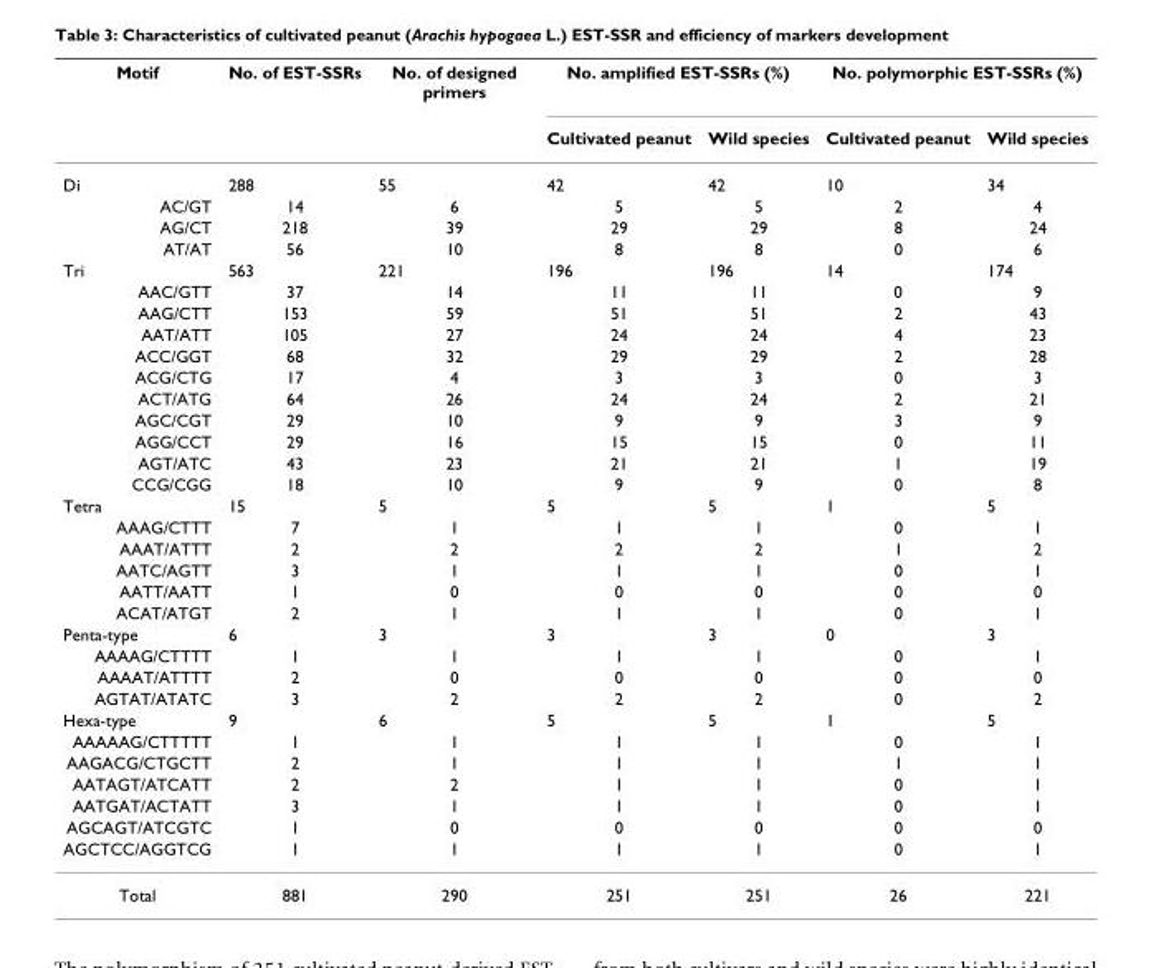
<table><thead><tr><td rowspan="2">Motif</td><td rowspan="2">No. of EST-SSRs</td><td rowspan="2">No. of designed primers</td><td colspan="2">No. amplified EST-SSRs (%)</td><td colspan="2">No. polymorphic EST-SSRs (%)</td></tr><tr><td>Cultivated peanut</td><td>Wild species</td><td>Cultivated peanut</td><td>Wild species</td></tr></thead><tbody><tr><td>Di</td><td>288</td><td>55</td><td>42</td><td>42</td><td>10</td><td>34</td></tr><tr><td>AC/GT</td><td>14</td><td>6</td><td>5</td><td>5</td><td>2</td><td>4</td></tr><tr><td>AG/CT</td><td>218</td><td>39</td><td>29</td><td>29</td><td>8</td><td>24</td></tr><tr><td>AT/AT</td><td>56</td><td>10</td><td>8</td><td>8</td><td>0</td><td>6</td></tr><tr><td>Tri</td><td>563</td><td>221</td><td>196</td><td>196</td><td>14</td><td>174</td></tr><tr><td>AAC/GTT</td><td>37</td><td>14</td><td>11</td><td>11</td><td>0</td><td>9</td></tr><tr><td>AAG/CTT</td><td>153</td><td>59</td><td>51</td><td>51</td><td>2</td><td>43</td></tr><tr><td>AAT/ATT</td><td>105</td><td>27</td><td>24</td><td>24</td><td>4</td><td>23</td></tr><tr><td>ACC/GGT</td><td>68</td><td>32</td><td>29</td><td>29</td><td>2</td><td>28</td></tr><tr><td>ACG/CTG</td><td>17</td><td>4</td><td>3</td><td>3</td><td>0</td><td>3</td></tr><tr><td>ACT/ATG</td><td>64</td><td>26</td><td>24</td><td>24</td><td>2</td><td>21</td></tr><tr><td>AGC/CGT</td><td>29</td><td>10</td><td>9</td><td>9</td><td>3</td><td>9</td></tr><tr><td>AGG/CCT</td><td>29</td><td>16</td><td>15</td><td>15</td><td>0</td><td>11</td></tr><tr><td>AGT/ATC</td><td>43</td><td>23</td><td>21</td><td>21</td><td>1</td><td>19</td></tr><tr><td>CCG/CGG</td><td>18</td><td>10</td><td>9</td><td>9</td><td>0</td><td>8</td></tr><tr><td>Tetra</td><td>15</td><td>5</td><td>5</td><td>5</td><td>1</td><td>5</td></tr><tr><td>AAAG/CTTT</td><td>7</td><td>1</td><td>1</td><td>1</td><td>0</td><td>1</td></tr><tr><td>AAAT/ATTT</td><td>2</td><td>2</td><td>2</td><td>2</td><td>1</td><td>2</td></tr><tr><td>AATC/AGTT</td><td>3</td><td>1</td><td>1</td><td>1</td><td>0</td><td>1</td></tr><tr><td>AATT/AATT</td><td>1</td><td>0</td><td>0</td><td>0</td><td>0</td><td>0</td></tr><tr><td>ACAT/ATGT</td><td>2</td><td>1</td><td>1</td><td>1</td><td>0</td><td>1</td></tr><tr><td>Penta-type</td><td>6</td><td>3</td><td>3</td><td>3</td><td>0</td><td>3</td></tr><tr><td>AAAAG/CTTTT</td><td>1</td><td>1</td><td>1</td><td>1</td><td>0</td><td>1</td></tr><tr><td>AAAAT/ATTTT</td><td>2</td><td>0</td><td>0</td><td>0</td><td>0</td><td>0</td></tr><tr><td>AGTAT/ATATC</td><td>3</td><td>2</td><td>2</td><td>2</td><td>0</td><td>2</td></tr><tr><td>Hexa-type</td><td>9</td><td>6</td><td>5</td><td>5</td><td>1</td><td>5</td></tr><tr><td>AAAAAG/CTTTTT</td><td>1</td><td>1</td><td>1</td><td>1</td><td>0</td><td>1</td></tr><tr><td>AAGACG/CTGCTT</td><td>2</td><td>1</td><td>1</td><td>1</td><td>1</td><td>1</td></tr><tr><td>AATAGT/ATCATT</td><td>2</td><td>2</td><td>1</td><td>1</td><td>0</td><td>1</td></tr><tr><td>AATGAT/ACTATT</td><td>3</td><td>1</td><td>1</td><td>1</td><td>0</td><td>1</td></tr><tr><td>AGCAGT/ATCGTC</td><td>1</td><td>0</td><td>0</td><td>0</td><td>0</td><td>0</td></tr><tr><td>AGCTCC/AGGTCG</td><td>1</td><td>1</td><td>1</td><td>1</td><td>0</td><td>1</td></tr><tr><td>Total</td><td>881</td><td>290</td><td>251</td><td>251</td><td>26</td><td>221</td></tr></tbody></table>